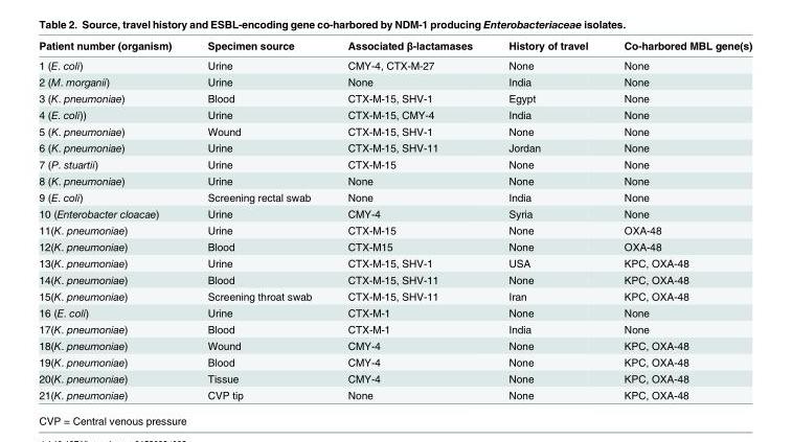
<table><thead><tr><td>Patient number (organism)</td><td>Specimen source</td><td>Associated β-lactamases</td><td>History of travel</td><td>Co-harbored MBL gene(s)</td></tr></thead><tbody><tr><td>1 (E. coli)</td><td>Urine</td><td>CMY-4, CTX-M-27</td><td>None</td><td>None</td></tr><tr><td>2 (M. morganii)</td><td>Urine</td><td>None</td><td>India</td><td>None</td></tr><tr><td>3 (K. pneumoniae)</td><td>Blood</td><td>CTX-M-15, SHV-1</td><td>Egypt</td><td>None</td></tr><tr><td>4 (E. coli))</td><td>Urine</td><td>CTX-M-15, CMY-4</td><td>India</td><td>None</td></tr><tr><td>5 (K. pneumoniae)</td><td>Wound</td><td>CTX-M-15, SHV-1</td><td>None</td><td>None</td></tr><tr><td>6 (K. pneumoniae)</td><td>Urine</td><td>CTX-M-15, SHV-11</td><td>Jordan</td><td>None</td></tr><tr><td>7 (P. stuartii)</td><td>Urine</td><td>CTX-M-15</td><td>None</td><td>None</td></tr><tr><td>8 (K. pneumoniae)</td><td>Urine</td><td>None</td><td>None</td><td>None</td></tr><tr><td>9 (E. coli)</td><td>Screening rectal swab</td><td>None</td><td>India</td><td>None</td></tr><tr><td>10 (Enterobacter cloacae)</td><td>Urine</td><td>CMY-4</td><td>Syria</td><td>None</td></tr><tr><td>11(K. pneumoniae)</td><td>Urine</td><td>CTX-M-15</td><td>None</td><td>OXA-48</td></tr><tr><td>12(K. pneumoniae)</td><td>Blood</td><td>CTX-M15</td><td>None</td><td>OXA-48</td></tr><tr><td>13(K. pneumoniae)</td><td>Urine</td><td>CTX-M-15, SHV-1</td><td>USA</td><td>KPC, OXA-48</td></tr><tr><td>14(K. pneumoniae)</td><td>Blood</td><td>CTX-M-15, SHV-11</td><td>None</td><td>KPC, OXA-48</td></tr><tr><td>15(K. pneumoniae)</td><td>Screening throat swab</td><td>CTX-M-15, SHV-11</td><td>Iran</td><td>KPC, OXA-48</td></tr><tr><td>16 (E. coli)</td><td>Urine</td><td>CTX-M-1</td><td>None</td><td>None</td></tr><tr><td>17(K. pneumoniae)</td><td>Blood</td><td>CTX-M-1</td><td>India</td><td>None</td></tr><tr><td>18(K. pneumoniae)</td><td>Wound</td><td>CMY-4</td><td>None</td><td>KPC, OXA-48</td></tr><tr><td>19(K. pneumoniae)</td><td>Blood</td><td>CMY-4</td><td>None</td><td>KPC, OXA-48</td></tr><tr><td>20(K. pneumoniae)</td><td>Tissue</td><td>CMY-4</td><td>None</td><td>KPC, OXA-48</td></tr><tr><td>21(K. pneumoniae)</td><td>CVP tip</td><td>None</td><td>None</td><td>KPC, OXA-48</td></tr></tbody></table>